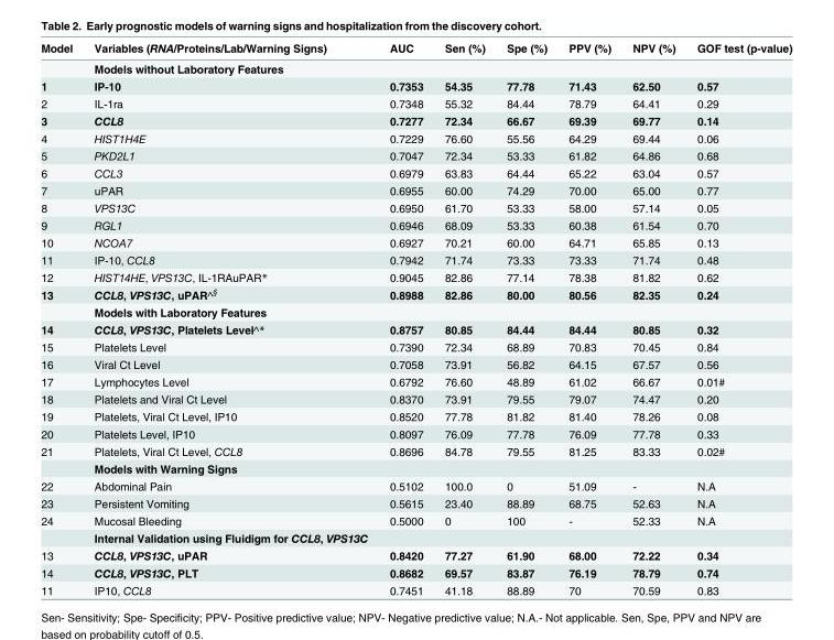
<table><thead><tr><td>Model</td><td>Variables (RNA/Proteins/Lab/Warning Signs)</td><td>AUC</td><td>Sen (%)</td><td>Spe (%)</td><td>PPV (%)</td><td>NPV (%)</td><td>GOF test (p-value)</td></tr></thead><tbody><tr><td></td><td>Models without Laboratory Features</td><td></td><td></td><td></td><td></td><td></td><td></td></tr><tr><td>1</td><td>IP-10</td><td>0.7353</td><td>54.35</td><td>77.78</td><td>71.43</td><td>62.50</td><td>0.57</td></tr><tr><td>2</td><td>IL-1ra</td><td>0.7348</td><td>55.32</td><td>84.44</td><td>78.79</td><td>64.41</td><td>0.29</td></tr><tr><td>3</td><td>CCL8</td><td>0.7277</td><td>72.34</td><td>66.67</td><td>69.39</td><td>69.77</td><td>0.14</td></tr><tr><td>4</td><td>HIST1H4E</td><td>0.7229</td><td>76.60</td><td>55.56</td><td>64.29</td><td>69.44</td><td>0.06</td></tr><tr><td>5</td><td>PKD2L1</td><td>0.7047</td><td>72.34</td><td>53.33</td><td>61.82</td><td>64.86</td><td>0.68</td></tr><tr><td>6</td><td>CCL3</td><td>0.6979</td><td>63.83</td><td>64.44</td><td>65.22</td><td>63.04</td><td>0.57</td></tr><tr><td>7</td><td>uPAR</td><td>0.6955</td><td>60.00</td><td>74.29</td><td>70.00</td><td>65.00</td><td>0.77</td></tr><tr><td>8</td><td>VPS13C</td><td>0.6950</td><td>61.70</td><td>53.33</td><td>58.00</td><td>57.14</td><td>0.05</td></tr><tr><td>9</td><td>RGL1</td><td>0.6946</td><td>68.09</td><td>53.33</td><td>60.38</td><td>61.54</td><td>0.70</td></tr><tr><td>10</td><td>NCOA7</td><td>0.6927</td><td>70.21</td><td>60.00</td><td>64.71</td><td>65.85</td><td>0.13</td></tr><tr><td>11</td><td>IP-10, CCL8</td><td>0.7942</td><td>71.74</td><td>73.33</td><td>73.33</td><td>71.74</td><td>0.48</td></tr><tr><td>12</td><td>HIST14HE, VPS13C, IL-1RAuPAR*</td><td>0.9045</td><td>82.86</td><td>77.14</td><td>78.38</td><td>81.82</td><td>0.62</td></tr><tr><td rowspan="2">13</td><td>CCL8, VPS13C, uPAR^§</td><td>0.8988</td><td>82.86</td><td>80.00</td><td>80.56</td><td>82.35</td><td>0.24</td></tr><tr><td>Models with Laboratory Features</td><td></td><td></td><td></td><td></td><td></td><td></td></tr><tr><td>14</td><td>CCL8, VPS13C, Platelets Level^*</td><td>0.8757</td><td>80.85</td><td>84.44</td><td>84.44</td><td>80.85</td><td>0.32</td></tr><tr><td>15</td><td>Platelets Level</td><td>0.7390</td><td>72.34</td><td>68.89</td><td>70.83</td><td>70.45</td><td>0.84</td></tr><tr><td>16</td><td>Viral Ct Level</td><td>0.7058</td><td>73.91</td><td>56.82</td><td>64.15</td><td>67.57</td><td>0.56</td></tr><tr><td>17</td><td>Lymphocytes Level</td><td>0.6792</td><td>76.60</td><td>48.89</td><td>61.02</td><td>66.67</td><td>0.01#</td></tr><tr><td>18</td><td>Platelets and Viral Ct Level</td><td>0.8370</td><td>73.91</td><td>79.55</td><td>79.07</td><td>74.47</td><td>0.20</td></tr><tr><td>19</td><td>Platelets, Viral Ct Level, IP10</td><td>0.8520</td><td>77.78</td><td>81.82</td><td>81.40</td><td>78.26</td><td>0.08</td></tr><tr><td>20</td><td>Platelets Level, IP10</td><td>0.8097</td><td>76.09</td><td>77.78</td><td>76.09</td><td>77.78</td><td>0.33</td></tr><tr><td rowspan="2">21</td><td>Platelets, Viral Ct Level, CCL8</td><td>0.8696</td><td>84.78</td><td>79.55</td><td>81.25</td><td>83.33</td><td>0.02#</td></tr><tr><td>Models with Warning Signs</td><td></td><td></td><td></td><td></td><td></td><td></td></tr><tr><td>22</td><td>Abdominal Pain</td><td>0.5102</td><td>100.0</td><td>0</td><td>51.09</td><td>-</td><td>N.A</td></tr><tr><td>23</td><td>Persistent Vomiting</td><td>0.5615</td><td>23.40</td><td>88.89</td><td>68.75</td><td>52.63</td><td>N.A</td></tr><tr><td rowspan="2">24</td><td>Mucosal Bleeding</td><td>0.5000</td><td>0</td><td>100</td><td>-</td><td>52.33</td><td>N.A</td></tr><tr><td>Internal Validation using Fluidigm for CCL8, VPS13C</td><td></td><td></td><td></td><td></td><td></td><td></td></tr><tr><td>13</td><td>CCL8, VPS13C, uPAR</td><td>0.8420</td><td>77.27</td><td>61.90</td><td>68.00</td><td>72.22</td><td>0.34</td></tr><tr><td>14</td><td>CCL8, VPS13C, PLT</td><td>0.8682</td><td>69.57</td><td>83.87</td><td>76.19</td><td>78.79</td><td>0.74</td></tr><tr><td>11</td><td>IP10, CCL8</td><td>0.7451</td><td>41.18</td><td>88.89</td><td>70</td><td>70.59</td><td>0.83</td></tr></tbody></table>